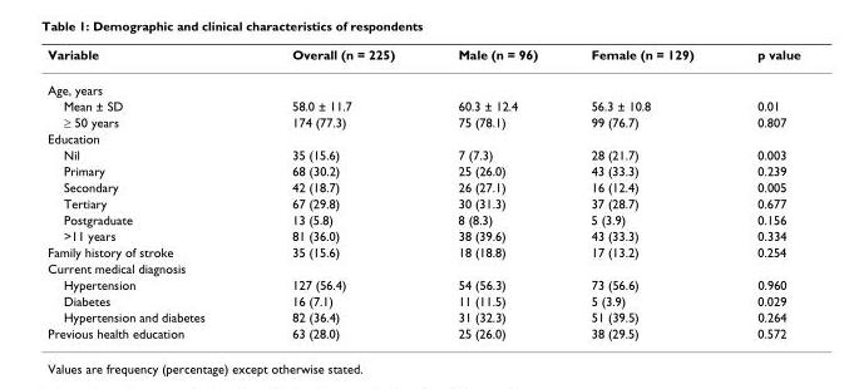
<table><thead><tr><td>Variable</td><td>Overall (n = 225)</td><td>Male (n = 96)</td><td>Female (n = 129)</td><td>p value</td></tr></thead><tbody><tr><td colspan="5">Age, years</td></tr><tr><td>Mean ± SD</td><td>58.0 ± 11.7</td><td>60.3 ± 12.4</td><td>56.3 ± 10.8</td><td>0.01</td></tr><tr><td>≥ 50 years</td><td>174 (77.3)</td><td>75 (78.1)</td><td>99 (76.7)</td><td>0.807</td></tr><tr><td colspan="5">Education</td></tr><tr><td>Nil</td><td>35 (15.6)</td><td>7 (7.3)</td><td>28 (21.7)</td><td>0.003</td></tr><tr><td>Primary</td><td>68 (30.2)</td><td>25 (26.0)</td><td>43 (33.3)</td><td>0.239</td></tr><tr><td>Secondary</td><td>42 (18.7)</td><td>26 (27.1)</td><td>16 (12.4)</td><td>0.005</td></tr><tr><td>Tertiary</td><td>67 (29.8)</td><td>30 (31.3)</td><td>37 (28.7)</td><td>0.677</td></tr><tr><td>Postgraduate</td><td>13 (5.8)</td><td>8 (8.3)</td><td>5 (3.9)</td><td>0.156</td></tr><tr><td>&gt;11 years</td><td>81 (36.0)</td><td>38 (39.6)</td><td>43 (33.3)</td><td>0.334</td></tr><tr><td>Family history of stroke</td><td>35 (15.6)</td><td>18 (18.8)</td><td>17 (13.2)</td><td>0.254</td></tr><tr><td colspan="5">Current medical diagnosis</td></tr><tr><td>Hypertension</td><td>127 (56.4)</td><td>54 (56.3)</td><td>73 (56.6)</td><td>0.960</td></tr><tr><td>Diabetes</td><td>16 (7.1)</td><td>11 (11.5)</td><td>5 (3.9)</td><td>0.029</td></tr><tr><td>Hypertension and diabetes</td><td>82 (36.4)</td><td>31 (32.3)</td><td>51 (39.5)</td><td>0.264</td></tr><tr><td>Previous health education</td><td>63 (28.0)</td><td>25 (26.0)</td><td>38 (29.5)</td><td>0.572</td></tr></tbody></table>